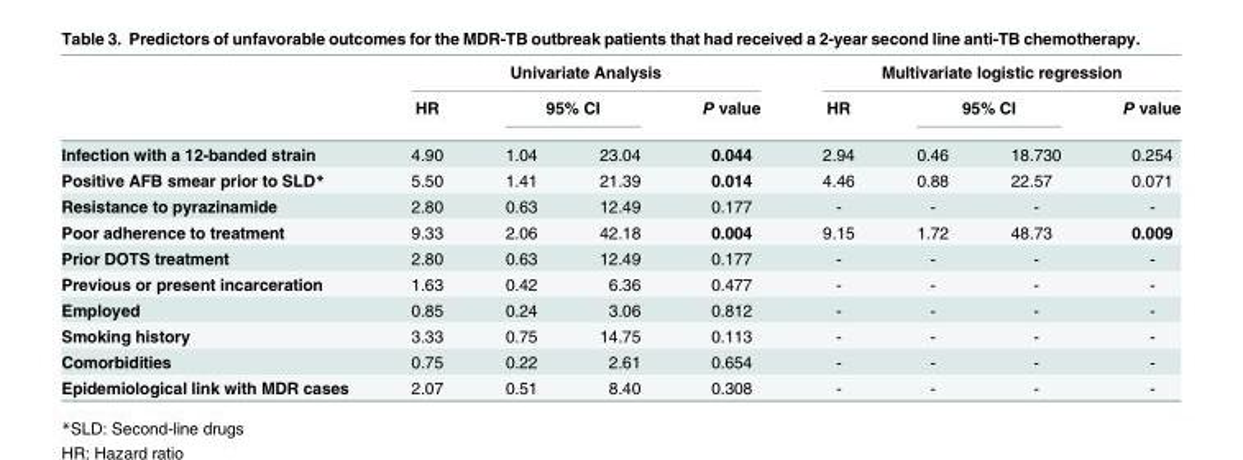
<table><thead><tr><td rowspan="3">Infection with a 12-banded strain</td><td colspan="4">Univariate Analysis</td><td colspan="4">Multivariate logistic regression</td></tr><tr><td rowspan="2">HR 4.90</td><td colspan="2">95% CI</td><td rowspan="2">P value 0.044</td><td rowspan="2">HR 2.94</td><td colspan="2">95% CI</td><td rowspan="2">P value 0.254</td></tr><tr><td>1.04</td><td>23.04</td><td>0.46</td><td>18.730</td></tr></thead><tbody><tr><td>Positive AFB smear prior to SLD*</td><td>5.50</td><td>1.41</td><td>21.39</td><td>0.014</td><td>4.46</td><td>0.88</td><td>22.57</td><td>0.071</td></tr><tr><td>Resistance to pyrazinamide</td><td>2.80</td><td>0.63</td><td>12.49</td><td>0.177</td><td>-</td><td>-</td><td>-</td><td>-</td></tr><tr><td>Poor adherence to treatment</td><td>9.33</td><td>2.06</td><td>42.18</td><td>0.004</td><td>9.15</td><td>1.72</td><td>48.73</td><td>0.009</td></tr><tr><td>Prior DOTS treatment</td><td>2.80</td><td>0.63</td><td>12.49</td><td>0.177</td><td>-</td><td>-</td><td>-</td><td>-</td></tr><tr><td>Previous or present incarceration</td><td>1.63</td><td>0.42</td><td>6.36</td><td>0.477</td><td>-</td><td>-</td><td>-</td><td>-</td></tr><tr><td>Employed</td><td>0.85</td><td>0.24</td><td>3.06</td><td>0.812</td><td>-</td><td>-</td><td>-</td><td>-</td></tr><tr><td>Smoking history</td><td>3.33</td><td>0.75</td><td>14.75</td><td>0.113</td><td>-</td><td>-</td><td>-</td><td>-</td></tr><tr><td>Comorbidities</td><td>0.75</td><td>0.22</td><td>2.61</td><td>0.654</td><td>-</td><td>-</td><td>-</td><td>-</td></tr><tr><td>Epidemiological link with MDR cases</td><td>2.07</td><td>0.51</td><td>8.40</td><td>0.308</td><td>-</td><td>-</td><td>-</td><td>-</td></tr></tbody></table>